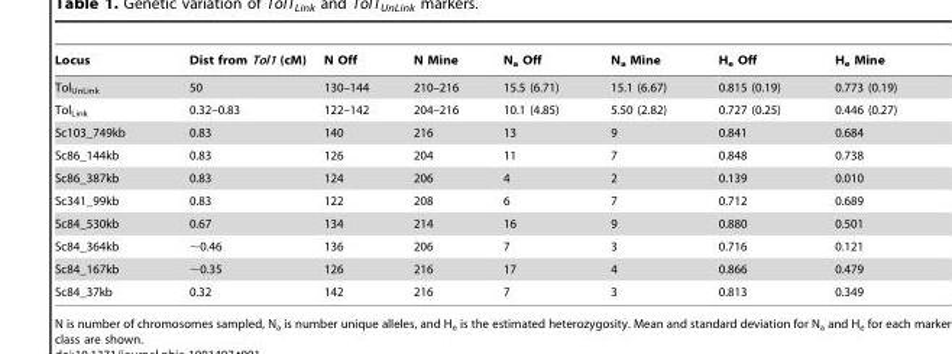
<table><thead><tr><td>Locus</td><td>Dist from Tol1 (cM)</td><td>N Off</td><td>N Mine</td><td>N<sub>a</sub> Off</td><td>N<sub>a</sub> Mine</td><td>H<sub>e</sub> Off</td><td>H<sub>e</sub> Mine</td></tr></thead><tbody><tr><td>Tol<sub>UnLink</sub></td><td>50</td><td>130–144</td><td>210–216</td><td>15.5 (6.71)</td><td>15.1 (6.67)</td><td>0.815 (0.19)</td><td>0.773 (0.19)</td></tr><tr><td>Tol<sub>Link</sub></td><td>0.32–0.83</td><td>122–142</td><td>204–216</td><td>10.1 (4.85)</td><td>5.50 (2.82)</td><td>0.727 (0.25)</td><td>0.446 (0.27)</td></tr><tr><td>Sc103_749kb</td><td>0.83</td><td>140</td><td>216</td><td>13</td><td>9</td><td>0.841</td><td>0.684</td></tr><tr><td>Sc86_144kb</td><td>0.83</td><td>126</td><td>204</td><td>11</td><td>7</td><td>0.848</td><td>0.738</td></tr><tr><td>Sc86_387kb</td><td>0.83</td><td>124</td><td>206</td><td>4</td><td>2</td><td>0.139</td><td>0.010</td></tr><tr><td>Sc341_99kb</td><td>0.83</td><td>122</td><td>208</td><td>6</td><td>7</td><td>0.712</td><td>0.689</td></tr><tr><td>Sc84_530kb</td><td>0.67</td><td>134</td><td>214</td><td>16</td><td>9</td><td>0.880</td><td>0.501</td></tr><tr><td>Sc84_364kb</td><td>∼0.46</td><td>136</td><td>206</td><td>7</td><td>3</td><td>0.716</td><td>0.121</td></tr><tr><td>Sc84_167kb</td><td>∼0.35</td><td>126</td><td>216</td><td>17</td><td>4</td><td>0.866</td><td>0.479</td></tr><tr><td>Sc84_37kb</td><td>0.32</td><td>142</td><td>216</td><td>7</td><td>3</td><td>0.813</td><td>0.349</td></tr></tbody></table>